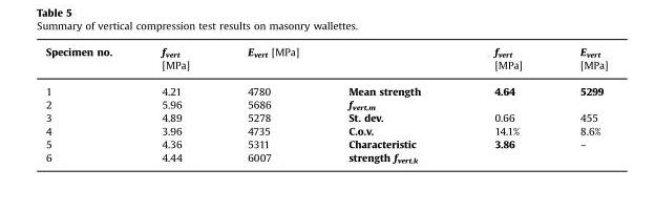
<table><thead><tr><td>Specimen no.</td><td>f<sub>vert</sub> [MPa]</td><td>E<sub>vert</sub> [MPa]</td><td></td><td>f<sub>vert</sub> [MPa]</td><td>E<sub>vert</sub> [MPa]</td></tr></thead><tbody><tr><td>1</td><td>4.21</td><td>4780</td><td rowspan="2">Mean strength f<sub>vert,m</sub></td><td rowspan="2">4.64</td><td rowspan="2">5299</td></tr><tr><td>2</td><td>5.96</td><td>5686</td></tr><tr><td>3</td><td>4.89</td><td>5278</td><td>St. dev.</td><td>0.66</td><td>455</td></tr><tr><td>4</td><td>3.96</td><td>4735</td><td>C.o.v.</td><td>14.1%</td><td>8.6%</td></tr><tr><td>5</td><td>4.36</td><td>5311</td><td rowspan="2">Characteristic strength f<sub>vert,k</sub></td><td rowspan="2">3.86</td><td rowspan="2">–</td></tr><tr><td>6</td><td>4.44</td><td>6007</td></tr></tbody></table>